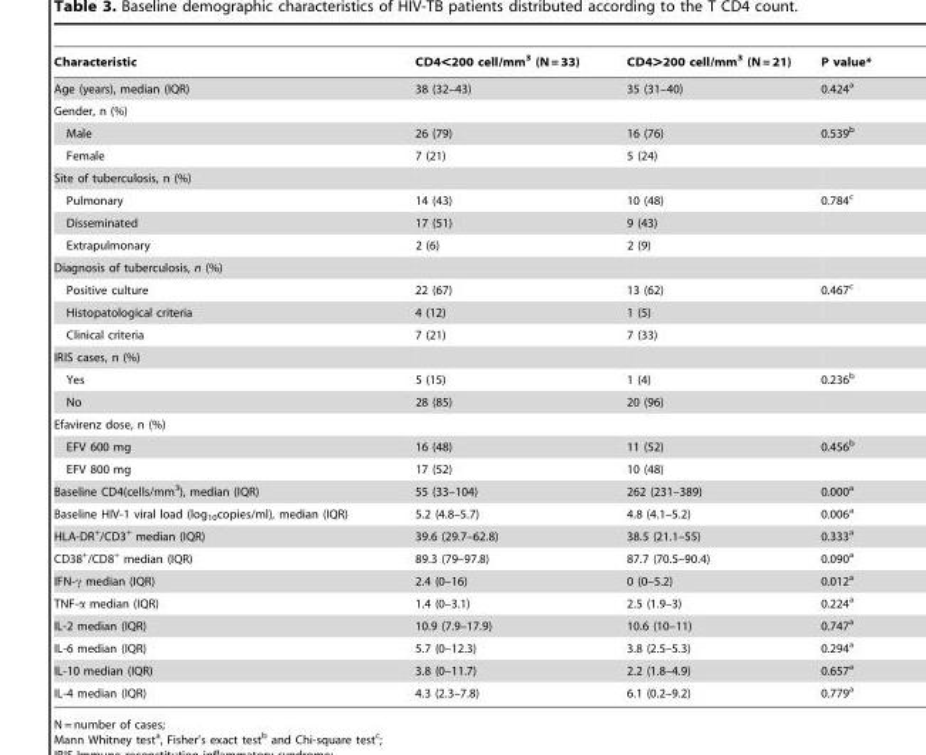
<table><thead><tr><td>Characteristic</td><td>CD4&lt;200 cell/mm<sup>3</sup> (N = 33)</td><td>CD4&gt;200 cell/mm<sup>3</sup> (N = 21)</td><td>P value*</td></tr></thead><tbody><tr><td>Age (years), median (IQR)</td><td>38 (32–43)</td><td>35 (31–40)</td><td>0.424<sup>a</sup></td></tr><tr><td colspan="4">Gender, n (%)</td></tr><tr><td>Male</td><td>26 (79)</td><td>16 (76)</td><td>0.539<sup>b</sup></td></tr><tr><td>Female</td><td>7 (21)</td><td>5 (24)</td><td></td></tr><tr><td colspan="4">Site of tuberculosis, n (%)</td></tr><tr><td>Pulmonary</td><td>14 (43)</td><td>10 (48)</td><td>0.784<sup>c</sup></td></tr><tr><td>Disseminated</td><td>17 (51)</td><td>9 (43)</td><td></td></tr><tr><td>Extrapulmonary</td><td>2 (6)</td><td>2 (9)</td><td></td></tr><tr><td colspan="4">Diagnosis of tuberculosis, n (%)</td></tr><tr><td>Positive culture</td><td>22 (67)</td><td>13 (62)</td><td>0.467<sup>c</sup></td></tr><tr><td>Histopatological criteria</td><td>4 (12)</td><td>1 (5)</td><td></td></tr><tr><td>Clinical criteria</td><td>7 (21)</td><td>7 (33)</td><td></td></tr><tr><td colspan="4">IRIS cases, n (%)</td></tr><tr><td>Yes</td><td>5 (15)</td><td>1 (4)</td><td>0.236<sup>b</sup></td></tr><tr><td>No</td><td>28 (85)</td><td>20 (96)</td><td></td></tr><tr><td colspan="4">Efavirenz dose, n (%)</td></tr><tr><td>EFV 600 mg</td><td>16 (48)</td><td>11 (52)</td><td>0.456<sup>b</sup></td></tr><tr><td>EFV 800 mg</td><td>17 (52)</td><td>10 (48)</td><td></td></tr><tr><td>Baseline CD4(cells/mm<sup>3</sup>), median (IQR)</td><td>55 (33–104)</td><td>262 (231–389)</td><td>0.000<sup>a</sup></td></tr><tr><td>Baseline HIV-1 viral load (log<sub>10</sub>copies/ml), median (IQR)</td><td>5.2 (4.8–5.7)</td><td>4.8 (4.1–5.2)</td><td>0.006<sup>a</sup></td></tr><tr><td>HLA-DR<sup>+</sup>/CD3<sup>+</sup> median (IQR)</td><td>39.6 (29.7–62.8)</td><td>38.5 (21.1–55)</td><td>0.333<sup>a</sup></td></tr><tr><td>CD38<sup>+</sup>/CD8<sup>+</sup> median (IQR)</td><td>89.3 (79–97.8)</td><td>87.7 (70.5–90.4)</td><td>0.090<sup>a</sup></td></tr><tr><td>IFN-γ median (IQR)</td><td>2.4 (0–16)</td><td>0 (0–5.2)</td><td>0.012<sup>a</sup></td></tr><tr><td>TNF-α median (IQR)</td><td>1.4 (0–3.1)</td><td>2.5 (1.9–3)</td><td>0.224<sup>a</sup></td></tr><tr><td>IL-2 median (IQR)</td><td>10.9 (7.9–17.9)</td><td>10.6 (10–11)</td><td>0.747<sup>a</sup></td></tr><tr><td>IL-6 median (IQR)</td><td>5.7 (0–12.3)</td><td>3.8 (2.5–5.3)</td><td>0.294<sup>a</sup></td></tr><tr><td>IL-10 median (IQR)</td><td>3.8 (0–11.7)</td><td>2.2 (1.8–4.9)</td><td>0.657<sup>a</sup></td></tr><tr><td>IL-4 median (IQR)</td><td>4.3 (2.3–7.8)</td><td>6.1 (0.2–9.2)</td><td>0.779<sup>a</sup></td></tr></tbody></table>